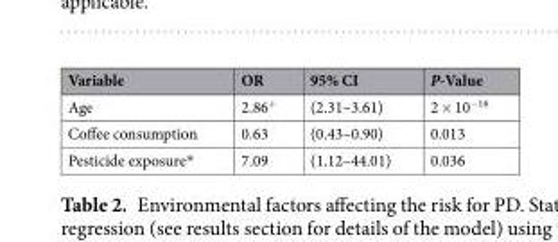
<table><thead><tr><td>Variable</td><td>OR</td><td>95% CI</td><td>P-Value</td></tr></thead><tbody><tr><td>Age</td><td>2.86<sup>+</sup></td><td>(2.31–3.61)</td><td>2 × 10<sup>−16</sup></td></tr><tr><td>Coffee consumption</td><td>0.63</td><td>(0.43–0.90)</td><td>0.013</td></tr><tr><td>Pesticide exposure*</td><td>7.09</td><td>(1.12–44.01)</td><td>0.036</td></tr></tbody></table>